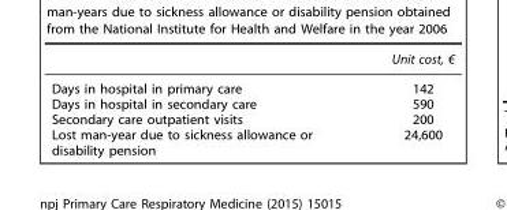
<table><thead><tr><td></td><td>Unit cost, €</td></tr></thead><tbody><tr><td>Days in hospital in primary care</td><td>142</td></tr><tr><td>Days in hospital in secondary care</td><td>590</td></tr><tr><td>Secondary care outpatient visits</td><td>200</td></tr><tr><td>Lost man-year due to sickness allowance or disability pension</td><td>24,600</td></tr></tbody></table>